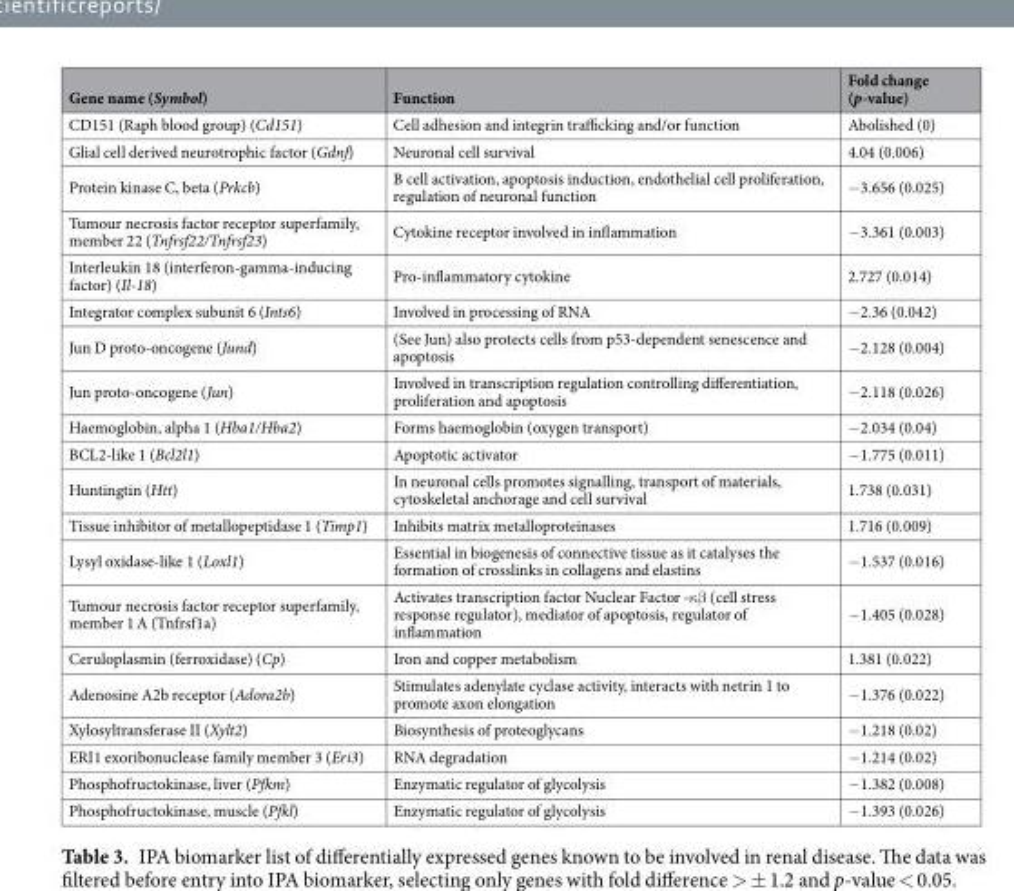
<table><thead><tr><td>Gene name (Symbol)</td><td>Function</td><td>Fold change (p-value)</td></tr></thead><tbody><tr><td>CD151 (Raph blood group) (Cd151)</td><td>Cell adhesion and integrin trafficking and/or function</td><td>Abolished (0)</td></tr><tr><td>Glial cell derived neurotrophic factor (Gdnf)</td><td>Neuronal cell survival</td><td>4.04 (0.006)</td></tr><tr><td>Protein kinase C, beta (Prkcb)</td><td>B cell activation, apoptosis induction, endothelial cell proliferation, regulation of neuronal function</td><td>−3.656 (0.025)</td></tr><tr><td>Tumour necrosis factor receptor superfamily, member 22 (Tnfrsf22/Tnfrsf23)</td><td>Cytokine receptor involved in inflammation</td><td>−3.361 (0.003)</td></tr><tr><td>Interleukin 18 (interferon-gamma-inducing factor) (Il-18)</td><td>Pro-inflammatory cytokine</td><td>2.727 (0.014)</td></tr><tr><td>Integrator complex subunit 6 (Ints6)</td><td>Involved in processing of RNA</td><td>−2.36 (0.042)</td></tr><tr><td>Jun D proto-oncogene (Jund)</td><td>(See Jun) also protects cells from p53-dependent senescence and apoptosis</td><td>−2.128 (0.004)</td></tr><tr><td>Jun proto-oncogene (Jun)</td><td>Involved in transcription regulation controlling differentiation, proliferation and apoptosis</td><td>−2.118 (0.026)</td></tr><tr><td>Haemoglobin, alpha 1 (Hba1/Hba2)</td><td>Forms haemoglobin (oxygen transport)</td><td>−2.034 (0.04)</td></tr><tr><td>BCL2-like 1 (Bcl2l1)</td><td>Apoptotic activator</td><td>−1.775 (0.011)</td></tr><tr><td>Huntingtin (Htt)</td><td>In neuronal cells promotes signalling, transport of materials, cytoskeletal anchorage and cell survival</td><td>1.738 (0.031)</td></tr><tr><td>Tissue inhibitor of metallopeptidase 1 (Timp1)</td><td>Inhibits matrix metalloproteinases</td><td>1.716 (0.009)</td></tr><tr><td>Lysyl oxidase-like 1 (Loxl1)</td><td>Essential in biogenesis of connective tissue as it catalyses the formation of crosslinks in collagens and elastins</td><td>−1.537 (0.016)</td></tr><tr><td>Tumour necrosis factor receptor superfamily, member 1 A (Tnfrsf1a)</td><td>Activates transcription factor Nuclear Factor -κβ (cell stress response regulator), mediator of apoptosis, regulator of inflammation</td><td>−1.405 (0.028)</td></tr><tr><td>Ceruloplasmin (ferroxidase) (Cp)</td><td>Iron and copper metabolism</td><td>1.381 (0.022)</td></tr><tr><td>Adenosine A2b receptor (Adora2b)</td><td>Stimulates adenylate cyclase activity, interacts with netrin 1 to promote axon elongation</td><td>−1.376 (0.022)</td></tr><tr><td>Xylosyltransferase II (Xylt2)</td><td>Biosynthesis of proteoglycans</td><td>−1.218 (0.02)</td></tr><tr><td>ERI1 exoribonuclease family member 3 (Eri3)</td><td>RNA degradation</td><td>−1.214 (0.02)</td></tr><tr><td>Phosphofructokinase, liver (Pfkm)</td><td>Enzymatic regulator of glycolysis</td><td>−1.382 (0.008)</td></tr><tr><td>Phosphofructokinase, muscle (Pfkl)</td><td>Enzymatic regulator of glycolysis</td><td>−1.393 (0.026)</td></tr></tbody></table>